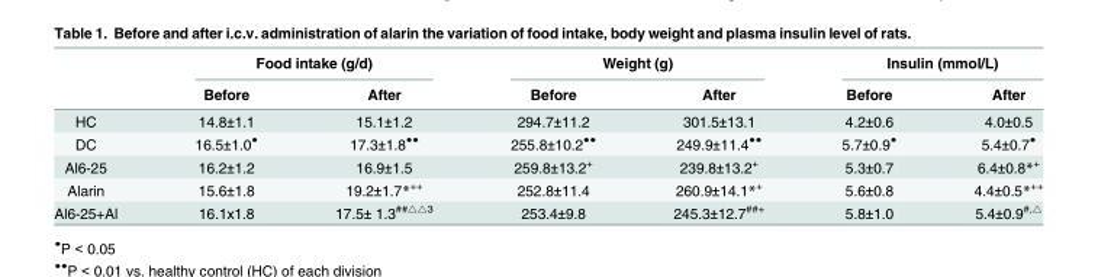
<table><thead><tr><td rowspan="2"></td><td colspan="2">Food intake (g/d)</td><td colspan="2">Weight (g)</td><td colspan="2">Insulin (mmol/L)</td></tr><tr><td>Before</td><td>After</td><td>Before</td><td>After</td><td>Before</td><td>After</td></tr></thead><tbody><tr><td>HC</td><td>14.8±1.1</td><td>15.1±1.2</td><td>294.7±11.2</td><td>301.5±13.1</td><td>4.2±0.6</td><td>4.0±0.5</td></tr><tr><td>DC</td><td>16.5±1.0<sup>●</sup></td><td>17.3±1.8<sup>●●</sup></td><td>255.8±10.2<sup>●●</sup></td><td>249.9±11.4<sup>●●</sup></td><td>5.7±0.9<sup>●</sup></td><td>5.4±0.7<sup>●</sup></td></tr><tr><td>Al6-25</td><td>16.2±1.2</td><td>16.9±1.5</td><td>259.8±13.2<sup>+</sup></td><td>239.8±13.2<sup>+</sup></td><td>5.3±0.7</td><td>6.4±0.8*<sup>+</sup></td></tr><tr><td>Alarin</td><td>15.6±1.8</td><td>19.2±1.7*<sup>++</sup></td><td>252.8±11.4</td><td>260.9±14.1*<sup>+</sup></td><td>5.6±0.8</td><td>4.4±0.5*<sup>++</sup></td></tr><tr><td>Al6-25+Al</td><td>16.1x1.8</td><td>17.5± 1.3<sup>##△△3</sup></td><td>253.4±9.8</td><td>245.3±12.7<sup>##+</sup></td><td>5.8±1.0</td><td>5.4±0.9<sup>#,△</sup></td></tr></tbody></table>